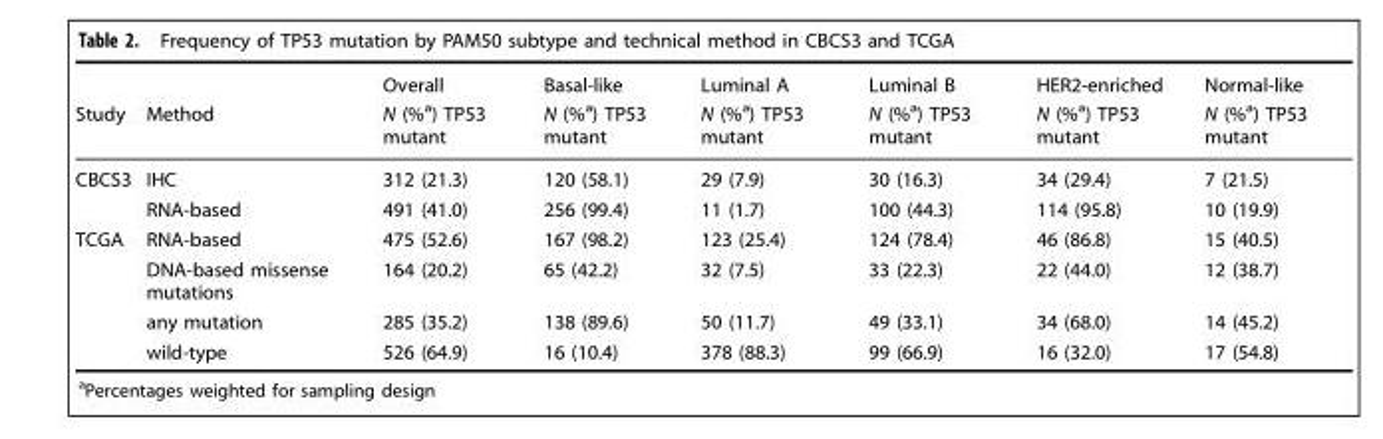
<table><thead><tr><td rowspan="2">Study</td><td rowspan="2">Method</td><td rowspan="2">Overall N (%<sup>a</sup>) TP53 mutant</td><td rowspan="2">Basal-like N (%<sup>a</sup>) TP53 mutant</td><td rowspan="2">Luminal A N (%<sup>a</sup>) TP53 mutant</td><td rowspan="2">Luminal B N (%<sup>a</sup>) TP53 mutant</td><td rowspan="2">HER2-enriched N (%<sup>a</sup>) TP53 mutant</td><td rowspan="2">Normal-like N (%<sup>a</sup>) TP53 mutant</td></tr><tr></tr></thead><tbody><tr><td rowspan="2">CBCS3</td><td>IHC</td><td>312 (21.3)</td><td>120 (58.1)</td><td>29 (7.9)</td><td>30 (16.3)</td><td>34 (29.4)</td><td>7 (21.5)</td></tr><tr><td>RNA-based</td><td>491 (41.0)</td><td>256 (99.4)</td><td>11 (1.7)</td><td>100 (44.3)</td><td>114 (95.8)</td><td>10 (19.9)</td></tr><tr><td rowspan="4">TCGA</td><td>RNA-based</td><td>475 (52.6)</td><td>167 (98.2)</td><td>123 (25.4)</td><td>124 (78.4)</td><td>46 (86.8)</td><td>15 (40.5)</td></tr><tr><td>DNA-based missense mutations</td><td>164 (20.2)</td><td>65 (42.2)</td><td>32 (7.5)</td><td>33 (22.3)</td><td>22 (44.0)</td><td>12 (38.7)</td></tr><tr><td>any mutation</td><td>285 (35.2)</td><td>138 (89.6)</td><td>50 (11.7)</td><td>49 (33.1)</td><td>34 (68.0)</td><td>14 (45.2)</td></tr><tr><td>wild-type</td><td>526 (64.9)</td><td>16 (10.4)</td><td>378 (88.3)</td><td>99 (66.9)</td><td>16 (32.0)</td><td>17 (54.8)</td></tr></tbody></table>